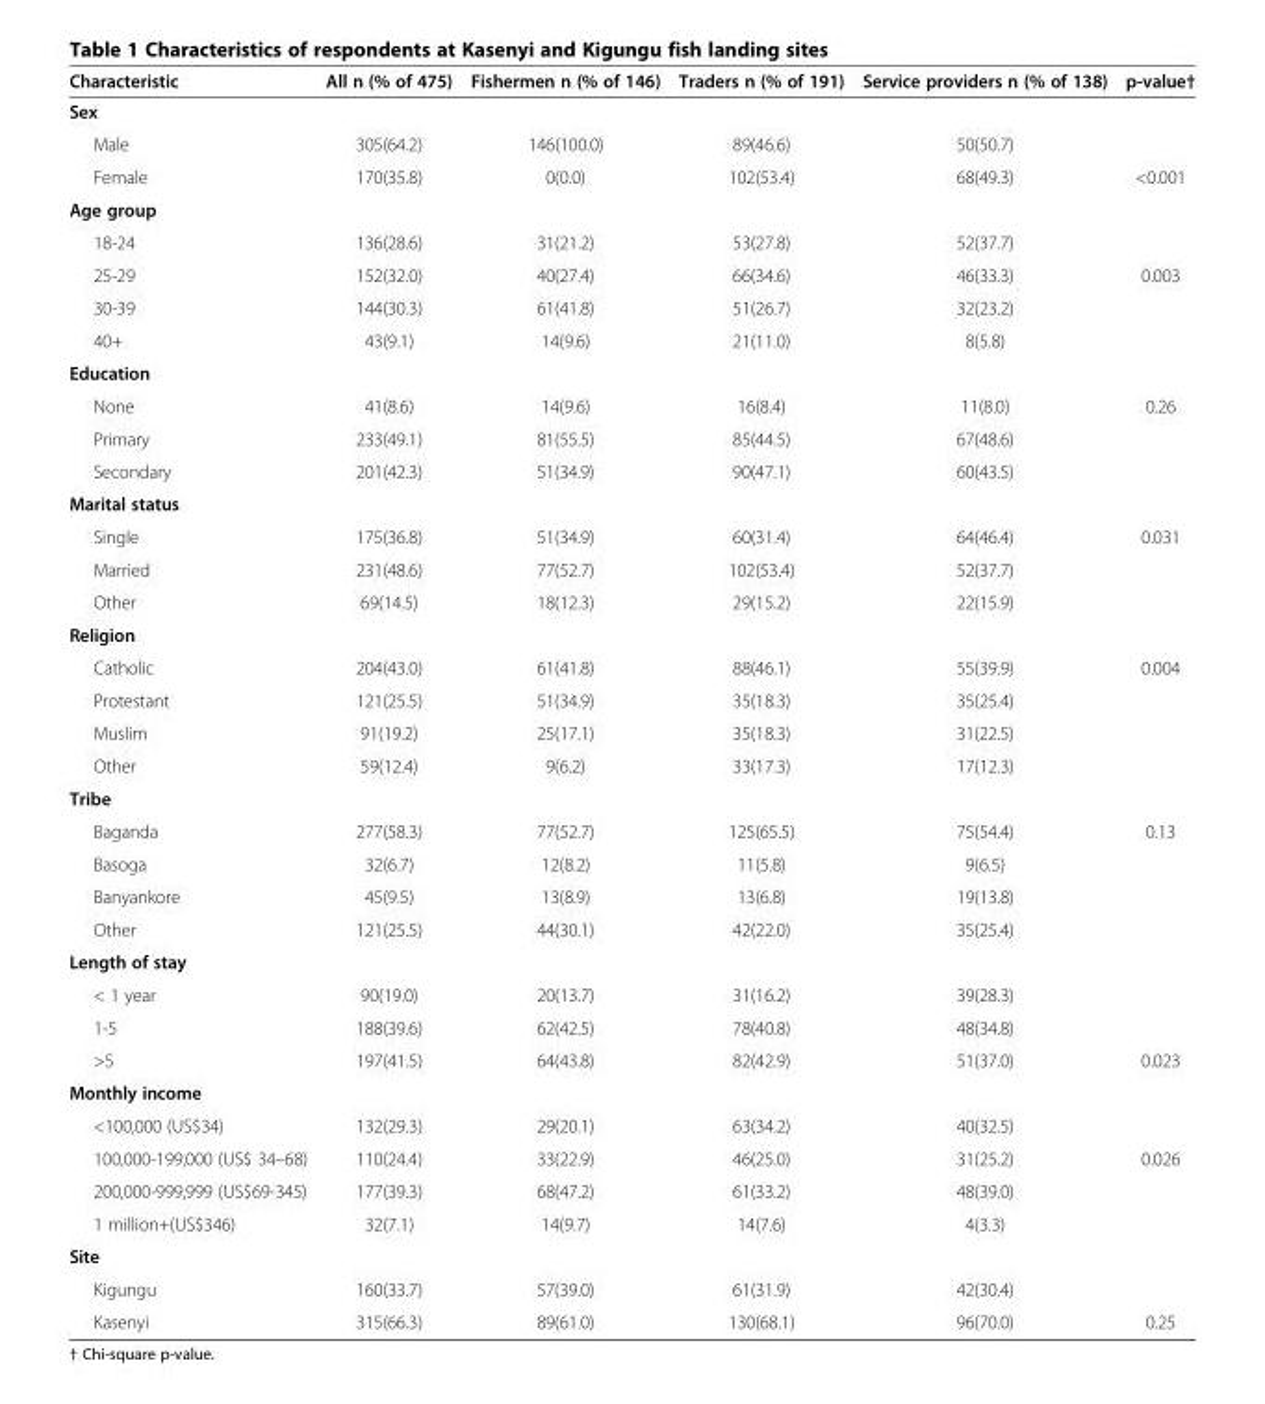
<table><thead><tr><td>Characteristic</td><td>All n (% of 475)</td><td>Fishermen n (% of 146)</td><td>Traders n (% of 191)</td><td>Service providers n (% of 138)</td><td>p-value†</td></tr></thead><tbody><tr><td colspan="6">Sex</td></tr><tr><td>Male</td><td>305(64.2)</td><td>146(100.0)</td><td>89(46.6)</td><td>50(50.7)</td><td></td></tr><tr><td>Female</td><td>170(35.8)</td><td>0(0.0)</td><td>102(53.4)</td><td>68(49.3)</td><td>&lt;0.001</td></tr><tr><td colspan="6">Age group</td></tr><tr><td>18-24</td><td>136(28.6)</td><td>31(21.2)</td><td>53(27.8)</td><td>52(37.7)</td><td></td></tr><tr><td>25-29</td><td>152(32.0)</td><td>40(27.4)</td><td>66(34.6)</td><td>46(33.3)</td><td>0.003</td></tr><tr><td>30-39</td><td>144(30.3)</td><td>61(41.8)</td><td>51(26.7)</td><td>32(23.2)</td><td></td></tr><tr><td>40+</td><td>43(9.1)</td><td>14(9.6)</td><td>21(11.0)</td><td>8(5.8)</td><td></td></tr><tr><td colspan="6">Education</td></tr><tr><td>None</td><td>41(8.6)</td><td>14(9.6)</td><td>16(8.4)</td><td>11(8.0)</td><td>0.26</td></tr><tr><td>Primary</td><td>233(49.1)</td><td>81(55.5)</td><td>85(44.5)</td><td>67(48.6)</td><td></td></tr><tr><td>Secondary</td><td>201(42.3)</td><td>51(34.9)</td><td>90(47.1)</td><td>60(43.5)</td><td></td></tr><tr><td colspan="6">Marital status</td></tr><tr><td>Single</td><td>175(36.8)</td><td>51(34.9)</td><td>60(31.4)</td><td>64(46.4)</td><td>0.031</td></tr><tr><td>Married</td><td>231(48.6)</td><td>77(52.7)</td><td>102(53.4)</td><td>52(37.7)</td><td></td></tr><tr><td>Other</td><td>69(14.5)</td><td>18(12.3)</td><td>29(15.2)</td><td>22(15.9)</td><td></td></tr><tr><td colspan="6">Religion</td></tr><tr><td>Catholic</td><td>204(43.0)</td><td>61(41.8)</td><td>88(46.1)</td><td>55(39.9)</td><td>0.004</td></tr><tr><td>Protestant</td><td>121(25.5)</td><td>51(34.9)</td><td>35(18.3)</td><td>35(25.4)</td><td></td></tr><tr><td>Muslim</td><td>91(19.2)</td><td>25(17.1)</td><td>35(18.3)</td><td>31(22.5)</td><td></td></tr><tr><td>Other</td><td>59(12.4)</td><td>9(6.2)</td><td>33(17.3)</td><td>17(12.3)</td><td></td></tr><tr><td colspan="6">Tribe</td></tr><tr><td>Baganda</td><td>277(58.3)</td><td>77(52.7)</td><td>125(65.5)</td><td>75(54.4)</td><td>0.13</td></tr><tr><td>Basoga</td><td>32(6.7)</td><td>12(8.2)</td><td>11(5.8)</td><td>9(6.5)</td><td></td></tr><tr><td>Banyankore</td><td>45(9.5)</td><td>13(8.9)</td><td>13(6.8)</td><td>19(13.8)</td><td></td></tr><tr><td>Other</td><td>121(25.5)</td><td>44(30.1)</td><td>42(22.0)</td><td>35(25.4)</td><td></td></tr><tr><td colspan="6">Length of stay</td></tr><tr><td>&lt; 1 year</td><td>90(19.0)</td><td>20(13.7)</td><td>31(16.2)</td><td>39(28.3)</td><td></td></tr><tr><td>1-5</td><td>188(39.6)</td><td>62(42.5)</td><td>78(40.8)</td><td>48(34.8)</td><td></td></tr><tr><td>&gt;5</td><td>197(41.5)</td><td>64(43.8)</td><td>82(42.9)</td><td>51(37.0)</td><td>0.023</td></tr><tr><td colspan="6">Monthly income</td></tr><tr><td>&lt;100,000 (US$34)</td><td>132(29.3)</td><td>29(20.1)</td><td>63(34.2)</td><td>40(32.5)</td><td></td></tr><tr><td>100,000-199,000 (US$ 34–68)</td><td>110(24.4)</td><td>33(22.9)</td><td>46(25.0)</td><td>31(25.2)</td><td>0.026</td></tr><tr><td>200,000-999,999 (US$69-345)</td><td>177(39.3)</td><td>68(47.2)</td><td>61(33.2)</td><td>48(39.0)</td><td></td></tr><tr><td>1 million+(US$346)</td><td>32(7.1)</td><td>14(9.7)</td><td>14(7.6)</td><td>4(3.3)</td><td></td></tr><tr><td colspan="6">Site</td></tr><tr><td>Kigungu</td><td>160(33.7)</td><td>57(39.0)</td><td>61(31.9)</td><td>42(30.4)</td><td></td></tr><tr><td>Kasenyi</td><td>315(66.3)</td><td>89(61.0)</td><td>130(68.1)</td><td>96(70.0)</td><td>0.25</td></tr></tbody></table>